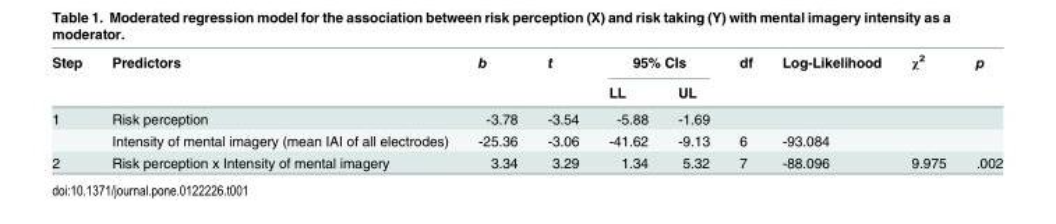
<table><thead><tr><td rowspan="2">Step</td><td rowspan="2">Predictors</td><td rowspan="2">b</td><td rowspan="2">t</td><td colspan="2">95% CIs</td><td rowspan="2">df</td><td rowspan="2">Log-Likelihood</td><td rowspan="2">χ<sup>2</sup></td><td rowspan="2">p</td></tr><tr><td>LL</td><td>UL</td></tr></thead><tbody><tr><td rowspan="2">1</td><td>Risk perception</td><td>-3.78</td><td>-3.54</td><td>-5.88</td><td>-1.69</td><td></td><td></td><td></td><td></td></tr><tr><td>Intensity of mental imagery (mean IAI of all electrodes)</td><td>-25.36</td><td>-3.06</td><td>-41.62</td><td>-9.13</td><td>6</td><td>-93.084</td><td></td><td></td></tr><tr><td>2</td><td>Risk perception x Intensity of mental imagery</td><td>3.34</td><td>3.29</td><td>1.34</td><td>5.32</td><td>7</td><td>-88.096</td><td>9.975</td><td>.002</td></tr></tbody></table>